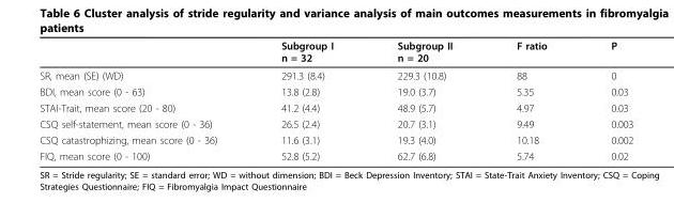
<table><thead><tr><td></td><td>Subgroup I n = 32</td><td>Subgroup II n = 20</td><td>F ratio</td><td>P</td></tr></thead><tbody><tr><td>SR, mean (SE) (WD)</td><td>291.3 (8.4)</td><td>229.3 (10.8)</td><td>88</td><td>0</td></tr><tr><td>BDI, mean score (0 - 63)</td><td>13.8 (2.8)</td><td>19.0 (3.7)</td><td>5.35</td><td>0.03</td></tr><tr><td>STAI-Trait, mean score (20 - 80)</td><td>41.2 (4.4)</td><td>48.9 (5.7)</td><td>4.97</td><td>0.03</td></tr><tr><td>CSQ self-statement, mean score (0 - 36)</td><td>26.5 (2.4)</td><td>20.7 (3.1)</td><td>9.49</td><td>0.003</td></tr><tr><td>CSQ catastrophizing, mean score (0 - 36)</td><td>11.6 (3.1)</td><td>19.3 (4.0)</td><td>10.18</td><td>0.002</td></tr><tr><td>FIQ, mean score (0 - 100)</td><td>52.8 (5.2)</td><td>62.7 (6.8)</td><td>5.74</td><td>0.02</td></tr></tbody></table>